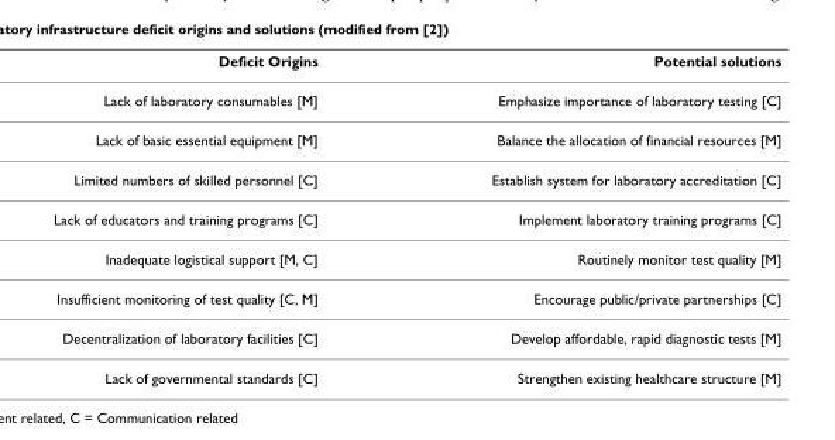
<table><thead><tr><td>Deficit Origins</td><td>Potential solutions</td></tr></thead><tbody><tr><td>Lack of laboratory consumables [M]</td><td>Emphasize importance of laboratory testing [C]</td></tr><tr><td>Lack of basic essential equipment [M]</td><td>Balance the allocation of financial resources [M]</td></tr><tr><td>Limited numbers of skilled personnel [C]</td><td>Establish system for laboratory accreditation [C]</td></tr><tr><td>Lack of educators and training programs [C]</td><td>Implement laboratory training programs [C]</td></tr><tr><td>Inadequate logistical support [M, C]</td><td>Routinely monitor test quality [M]</td></tr><tr><td>Insufficient monitoring of test quality [C, M]</td><td>Encourage public/private partnerships [C]</td></tr><tr><td>Decentralization of laboratory facilities [C]</td><td>Develop affordable, rapid diagnostic tests [M]</td></tr><tr><td>Lack of governmental standards [C]</td><td>Strengthen existing healthcare structure [M]</td></tr></tbody></table>